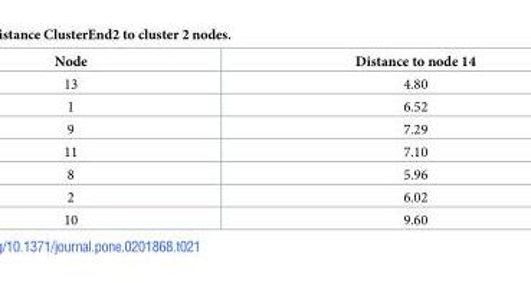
<table><thead><tr><td>Node</td><td>Distance to node 14</td></tr></thead><tbody><tr><td>13</td><td>4.80</td></tr><tr><td>1</td><td>6.52</td></tr><tr><td>9</td><td>7.29</td></tr><tr><td>11</td><td>7.10</td></tr><tr><td>8</td><td>5.96</td></tr><tr><td>2</td><td>6.02</td></tr><tr><td>10</td><td>9.60</td></tr></tbody></table>